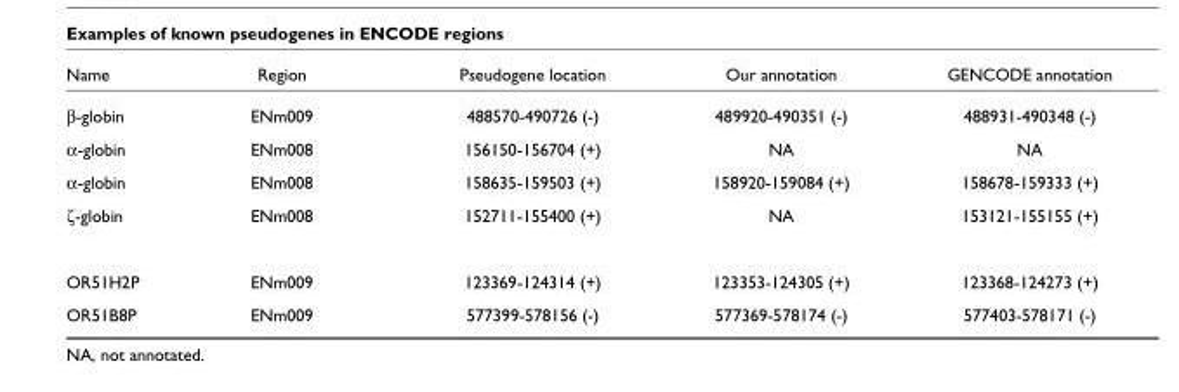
<table><thead><tr><td>Name</td><td>Region</td><td>Pseudogene location</td><td>Our annotation</td><td>GENCODE annotation</td></tr></thead><tbody><tr><td>β-globin</td><td>ENm009</td><td>488570-490726 (-)</td><td>489920-490351 (-)</td><td>488931-490348 (-)</td></tr><tr><td>α-globin</td><td>ENm008</td><td>156150-156704 (+)</td><td>NA</td><td>NA</td></tr><tr><td>α-globin</td><td>ENm008</td><td>158635-159503 (+)</td><td>158920-159084 (+)</td><td>158678-159333 (+)</td></tr><tr><td>ζ-globin</td><td>ENm008</td><td>152711-155400 (+)</td><td>NA</td><td>153121-155155 (+)</td></tr><tr><td>OR51H2P</td><td>ENm009</td><td>123369-124314 (+)</td><td>123353-124305 (+)</td><td>123368-124273 (+)</td></tr><tr><td>OR51B8P</td><td>ENm009</td><td>577399-578156 (-)</td><td>577369-578174 (-)</td><td>577403-578171 (-)</td></tr></tbody></table>